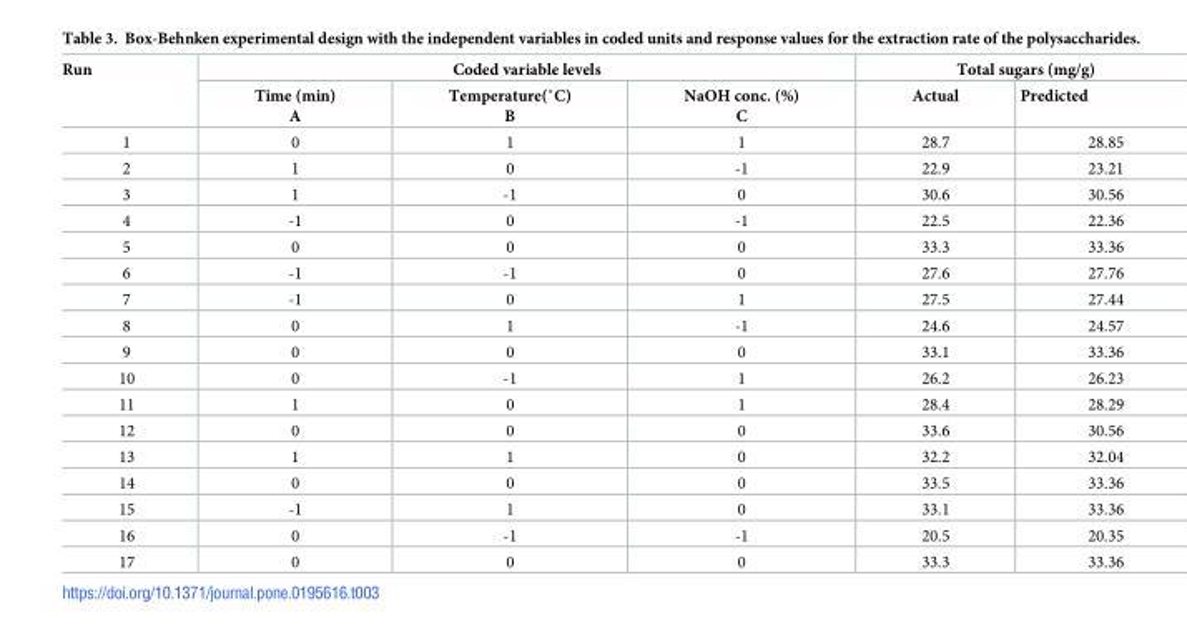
<table><thead><tr><td rowspan="2">Run</td><td colspan="3">Coded variable levels</td><td colspan="2">Total sugars (mg/g)</td></tr><tr><td>Time (min) A</td><td>Temperature(˚C) B</td><td>NaOH conc. (%) C</td><td>Actual</td><td>Predicted</td></tr></thead><tbody><tr><td>1</td><td>0</td><td>1</td><td>1</td><td>28.7</td><td>28.85</td></tr><tr><td>2</td><td>1</td><td>0</td><td>-1</td><td>22.9</td><td>23.21</td></tr><tr><td>3</td><td>1</td><td>-1</td><td>0</td><td>30.6</td><td>30.56</td></tr><tr><td>4</td><td>-1</td><td>0</td><td>-1</td><td>22.5</td><td>22.36</td></tr><tr><td>5</td><td>0</td><td>0</td><td>0</td><td>33.3</td><td>33.36</td></tr><tr><td>6</td><td>-1</td><td>-1</td><td>0</td><td>27.6</td><td>27.76</td></tr><tr><td>7</td><td>-1</td><td>0</td><td>1</td><td>27.5</td><td>27.44</td></tr><tr><td>8</td><td>0</td><td>1</td><td>-1</td><td>24.6</td><td>24.57</td></tr><tr><td>9</td><td>0</td><td>0</td><td>0</td><td>33.1</td><td>33.36</td></tr><tr><td>10</td><td>0</td><td>-1</td><td>1</td><td>26.2</td><td>26.23</td></tr><tr><td>11</td><td>1</td><td>0</td><td>1</td><td>28.4</td><td>28.29</td></tr><tr><td>12</td><td>0</td><td>0</td><td>0</td><td>33.6</td><td>30.56</td></tr><tr><td>13</td><td>1</td><td>1</td><td>0</td><td>32.2</td><td>32.04</td></tr><tr><td>14</td><td>0</td><td>0</td><td>0</td><td>33.5</td><td>33.36</td></tr><tr><td>15</td><td>-1</td><td>1</td><td>0</td><td>33.1</td><td>33.36</td></tr><tr><td>16</td><td>0</td><td>-1</td><td>-1</td><td>20.5</td><td>20.35</td></tr><tr><td>17</td><td>0</td><td>0</td><td>0</td><td>33.3</td><td>33.36</td></tr></tbody></table>